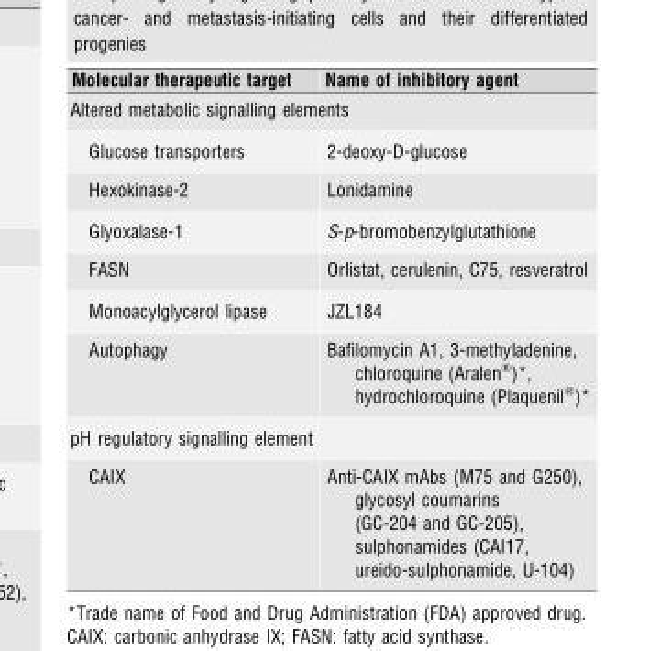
<table><thead><tr><td>Molecular therapeutic target</td><td>Name of inhibitory agent</td></tr></thead><tbody><tr><td colspan="2">Altered metabolic signalling elements</td></tr><tr><td>Glucose transporters</td><td>2-deoxy-D-glucose</td></tr><tr><td>Hexokinase-2</td><td>Lonidamine</td></tr><tr><td>Glyoxalase-1</td><td>S-p-bromobenzylglutathione</td></tr><tr><td>FASN</td><td>Orlistat, cerulenin, C75, resveratrol</td></tr><tr><td>Monoacylglycerol lipase</td><td>JZL184</td></tr><tr><td>Autophagy</td><td>Bafilomycin A1, 3-methyladenine, chloroquine (Aralen®)*, hydrochloroquine (Plaquenil®)*</td></tr><tr><td colspan="2">pH regulatory signalling element</td></tr><tr><td>CAIX</td><td>Anti-CAIX mAbs (M75 and G250), glycosyl coumarins (GC-204 and GC-205), sulphonamides (CAI17, ureido-sulphonamide, U-104)</td></tr></tbody></table>